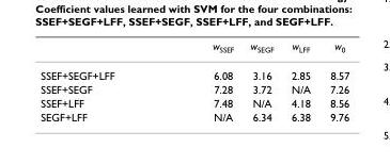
<table><thead><tr><td></td><td>w<sub>SSEF</sub></td><td>w<sub>SEGF</sub></td><td>w<sub>LFF</sub></td><td>w<sub>0</sub></td></tr></thead><tbody><tr><td>SSEF+SEGF+LFF</td><td>6.08</td><td>3.16</td><td>2.85</td><td>8.57</td></tr><tr><td>SSEF+SEGF</td><td>7.28</td><td>3.72</td><td>N/A</td><td>7.26</td></tr><tr><td>SSEF+LFF</td><td>7.48</td><td>N/A</td><td>4.18</td><td>8.56</td></tr><tr><td>SEGF+LFF</td><td>N/A</td><td>6.34</td><td>6.38</td><td>9.76</td></tr></tbody></table>